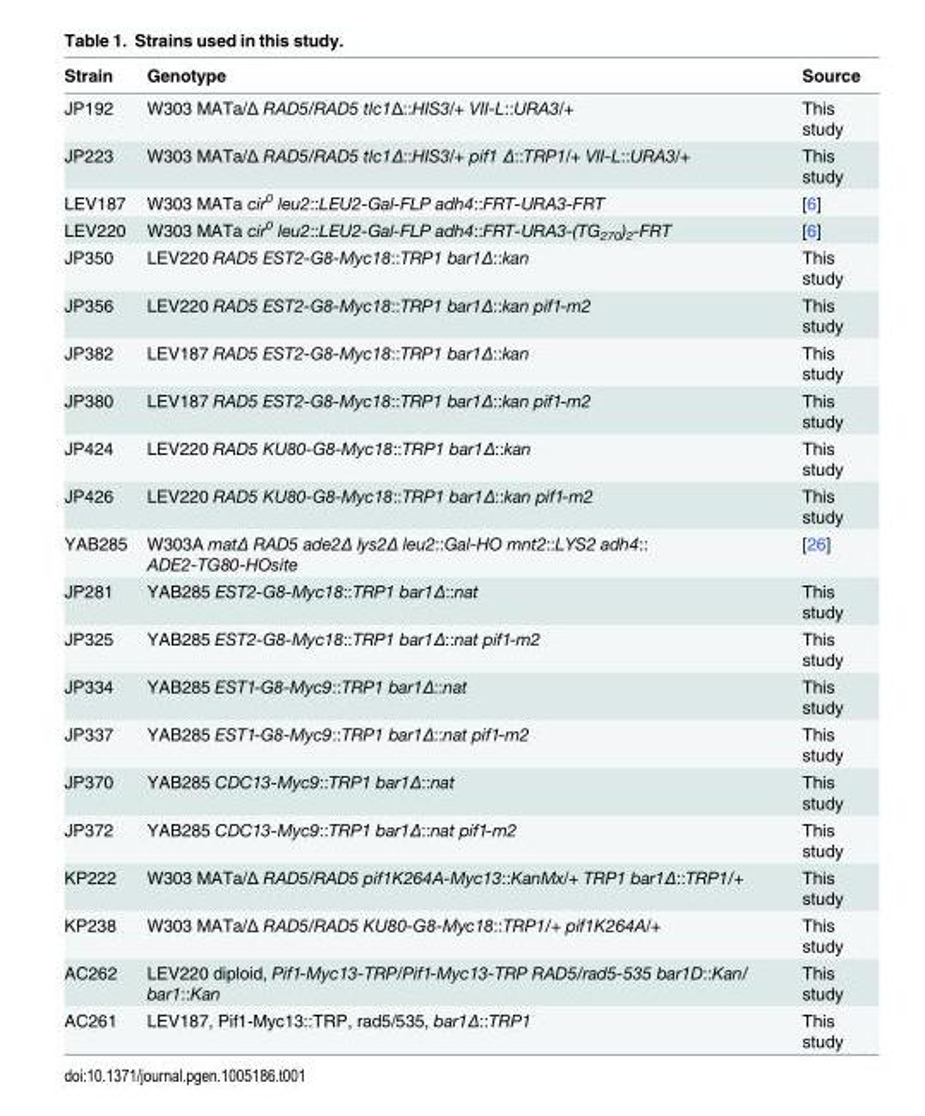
<table><thead><tr><td>Strain</td><td>Genotype</td><td>Source</td></tr></thead><tbody><tr><td>JP192</td><td>W303 MATa/Δ RAD5/RAD5 tlc1Δ::HIS3/+ VII-L::URA3/+</td><td>This study</td></tr><tr><td>JP223</td><td>W303 MATa/Δ RAD5/RAD5 tlc1Δ::HIS3/+ pif1 Δ::TRP1/+ VII-L::URA3/+</td><td>This study</td></tr><tr><td>LEV187</td><td>W303 MATa cir<sup>0</sup> leu2::LEU2-Gal-FLP adh4::FRT-URA3-FRT</td><td>[6]</td></tr><tr><td>LEV220</td><td>W303 MATa cir<sup>0</sup> leu2::LEU2-Gal-FLP adh4::FRT-URA3-(TG<sub>270</sub>)<sub>2</sub>-FRT</td><td>[6]</td></tr><tr><td>JP350</td><td>LEV220 RAD5 EST2-G8-Myc18::TRP1 bar1Δ::kan</td><td>This study</td></tr><tr><td>JP356</td><td>LEV220 RAD5 EST2-G8-Myc18::TRP1 bar1Δ::kan pif1-m2</td><td>This study</td></tr><tr><td>JP382</td><td>LEV187 RAD5 EST2-G8-Myc18::TRP1 bar1Δ::kan</td><td>This study</td></tr><tr><td>JP380</td><td>LEV187 RAD5 EST2-G8-Myc18::TRP1 bar1Δ::kan pif1-m2</td><td>This study</td></tr><tr><td>JP424</td><td>LEV220 RAD5 KU80-G8-Myc18::TRP1 bar1Δ::kan</td><td>This study</td></tr><tr><td>JP426</td><td>LEV220 RAD5 KU80-G8-Myc18::TRP1 bar1Δ::kan pif1-m2</td><td>This study</td></tr><tr><td>YAB285</td><td>W303A matΔ RAD5 ade2Δ lys2Δ leu2::Gal-HO mnt2::LYS2 adh4:: ADE2-TG80-HOsite</td><td>[26]</td></tr><tr><td>JP281</td><td>YAB285 EST2-G8-Myc18::TRP1 bar1Δ::nat</td><td>This study</td></tr><tr><td>JP325</td><td>YAB285 EST2-G8-Myc18::TRP1 bar1Δ::nat pif1-m2</td><td>This study</td></tr><tr><td>JP334</td><td>YAB285 EST1-G8-Myc9::TRP1 bar1Δ::nat</td><td>This study</td></tr><tr><td>JP337</td><td>YAB285 EST1-G8-Myc9::TRP1 bar1Δ::nat pif1-m2</td><td>This study</td></tr><tr><td>JP370</td><td>YAB285 CDC13-Myc9::TRP1 bar1Δ::nat</td><td>This study</td></tr><tr><td>JP372</td><td>YAB285 CDC13-Myc9::TRP1 bar1Δ::nat pif1-m2</td><td>This study</td></tr><tr><td>KP222</td><td>W303 MATa/Δ RAD5/RAD5 pif1K264A-Myc13::KanMx/+ TRP1 bar1Δ::TRP1/+</td><td>This study</td></tr><tr><td>KP238</td><td>W303 MATa/Δ RAD5/RAD5 KU80-G8-Myc18::TRP1/+ pif1K264A/+</td><td>This study</td></tr><tr><td>AC262</td><td>LEV220 diploid, Pif1-Myc13-TRP/Pif1-Myc13-TRP RAD5/rad5-535 bar1D::Kan/ bar1::Kan</td><td>This study</td></tr><tr><td>AC261</td><td>LEV187, Pif1-Myc13::TRP, rad5/535, bar1Δ::TRP1</td><td>This study</td></tr></tbody></table>